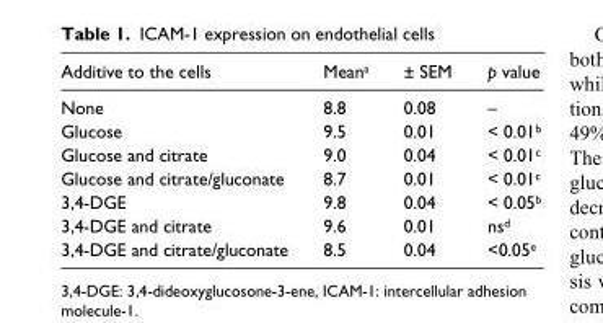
<table><thead><tr><td>Additive to the cells</td><td>Mean<sup>a</sup></td><td>± SEM</td><td>p value</td></tr></thead><tbody><tr><td>None</td><td>8.8</td><td>0.08</td><td>–</td></tr><tr><td>Glucose</td><td>9.5</td><td>0.01</td><td>&lt; 0.01<sup>b</sup></td></tr><tr><td>Glucose and citrate</td><td>9.0</td><td>0.04</td><td>&lt; 0.01<sup>c</sup></td></tr><tr><td>Glucose and citrate/gluconate</td><td>8.7</td><td>0.01</td><td>&lt; 0.01<sup>c</sup></td></tr><tr><td>3,4-DGE</td><td>9.8</td><td>0.04</td><td>&lt; 0.05<sup>b</sup></td></tr><tr><td>3,4-DGE and citrate</td><td>9.6</td><td>0.01</td><td>ns<sup>d</sup></td></tr><tr><td>3,4-DGE and citrate/gluconate</td><td>8.5</td><td>0.04</td><td>&lt;0.05<sup>e</sup></td></tr></tbody></table>